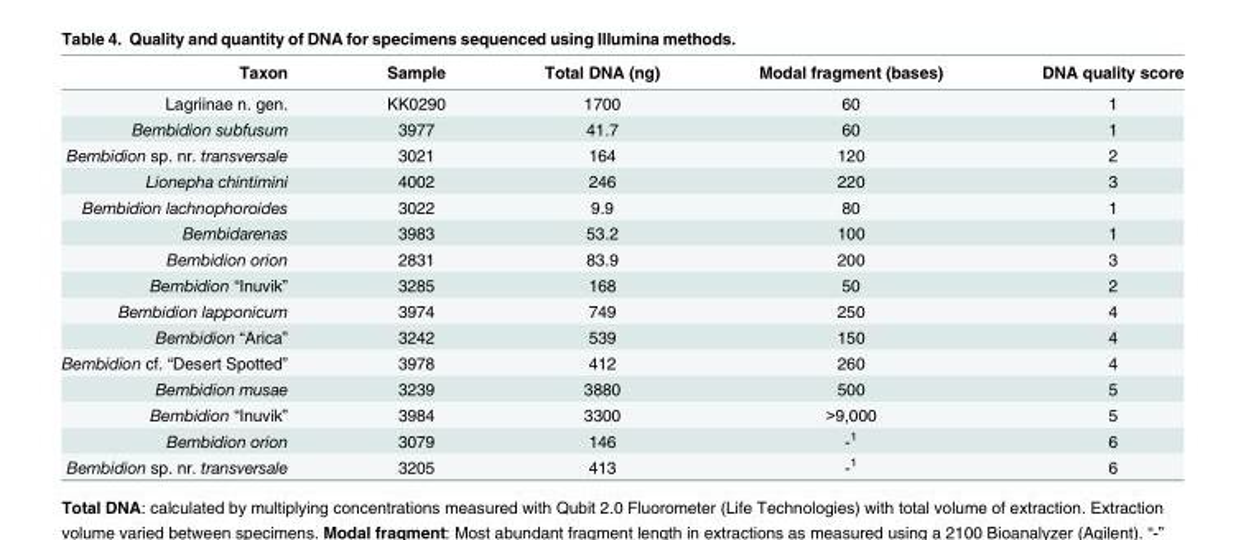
<table><thead><tr><td>Taxon</td><td>Sample</td><td>Total DNA (ng)</td><td>Modal fragment (bases)</td><td>DNA quality score</td></tr></thead><tbody><tr><td>Lagriinae n. gen.</td><td>KK0290</td><td>1700</td><td>60</td><td>1</td></tr><tr><td>Bembidion subfusum</td><td>3977</td><td>41.7</td><td>60</td><td>1</td></tr><tr><td>Bembidion sp. nr. transversale</td><td>3021</td><td>164</td><td>120</td><td>2</td></tr><tr><td>Lionepha chintimini</td><td>4002</td><td>246</td><td>220</td><td>3</td></tr><tr><td>Bembidion lachnophoroides</td><td>3022</td><td>9.9</td><td>80</td><td>1</td></tr><tr><td>Bembidarenas</td><td>3983</td><td>53.2</td><td>100</td><td>1</td></tr><tr><td>Bembidion orion</td><td>2831</td><td>83.9</td><td>200</td><td>3</td></tr><tr><td>Bembidion “Inuvik”</td><td>3285</td><td>168</td><td>50</td><td>2</td></tr><tr><td>Bembidion lapponicum</td><td>3974</td><td>749</td><td>250</td><td>4</td></tr><tr><td>Bembidion “Arica”</td><td>3242</td><td>539</td><td>150</td><td>4</td></tr><tr><td>Bembidion cf. “Desert Spotted”</td><td>3978</td><td>412</td><td>260</td><td>4</td></tr><tr><td>Bembidion musae</td><td>3239</td><td>3880</td><td>500</td><td>5</td></tr><tr><td>Bembidion “Inuvik”</td><td>3984</td><td>3300</td><td>&gt;9,000</td><td>5</td></tr><tr><td>Bembidion orion</td><td>3079</td><td>146</td><td>-<sup>1</sup></td><td>6</td></tr><tr><td>Bembidion sp. nr. transversale</td><td>3205</td><td>413</td><td>-<sup>1</sup></td><td>6</td></tr></tbody></table>